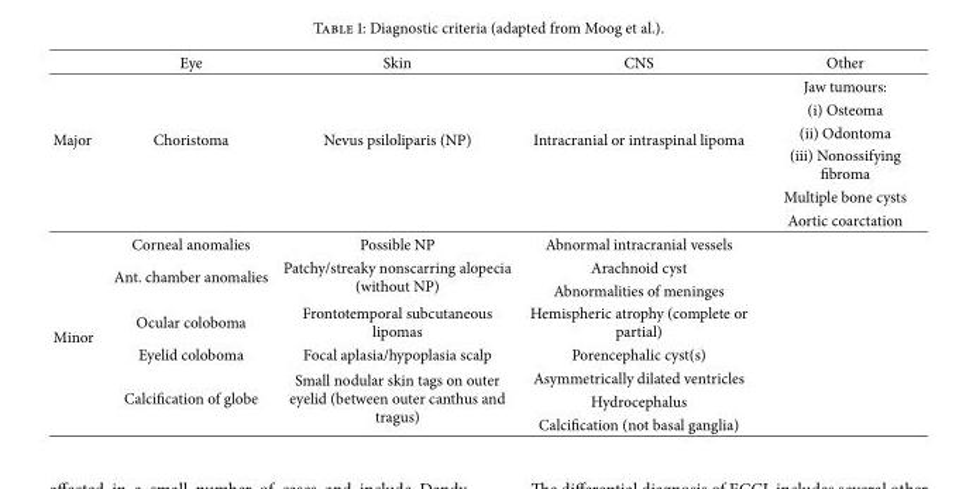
<table><thead><tr><td></td><td>Eye</td><td>Skin</td><td>CNS</td><td>Other</td></tr></thead><tbody><tr><td rowspan="6">Major</td><td rowspan="6">Choristoma</td><td rowspan="6">Nevus psiloliparis (NP)</td><td rowspan="6">Intracranial or intraspinal lipoma</td><td>Jaw tumours:</td></tr><tr><td>(i) Osteoma</td></tr><tr><td>(ii) Odontoma</td></tr><tr><td>(iii) Nonossifying fibroma</td></tr><tr><td>Multiple bone cysts</td></tr><tr><td>Aortic coarctation</td></tr><tr><td rowspan="8">Minor</td><td>Corneal anomalies</td><td>Possible NP</td><td>Abnormal intracranial vessels</td><td></td></tr><tr><td rowspan="2">Ant. chamber anomalies</td><td rowspan="2">Patchy/streaky nonscarring alopecia (without NP)</td><td>Arachnoid cyst</td><td rowspan="2"></td></tr><tr><td>Abnormalities of meninges</td></tr><tr><td>Ocular coloboma</td><td>Frontotemporal subcutaneous lipomas</td><td>Hemispheric atrophy (complete or partial)</td><td></td></tr><tr><td>Eyelid coloboma</td><td>Focal aplasia/hypoplasia scalp</td><td>Porencephalic cyst(s)</td><td></td></tr><tr><td rowspan="3">Calcification of globe</td><td rowspan="3">Small nodular skin tags on outer eyelid (between outer canthus and tragus)</td><td>Asymmetrically dilated ventricles</td><td rowspan="2"></td></tr><tr><td>Hydrocephalus</td></tr><tr><td>Calcification (not basal ganglia)</td><td></td></tr></tbody></table>